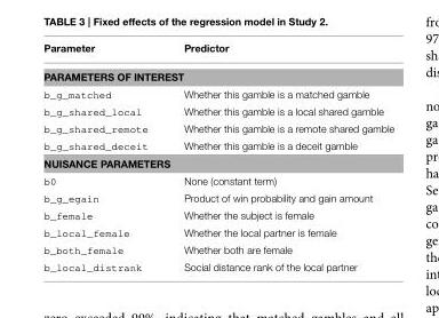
<table><thead><tr><td>Parameter</td><td>Predictor</td></tr></thead><tbody><tr><td colspan="2">PARAMETERS OF INTEREST</td></tr><tr><td>b_g_matched</td><td>Whether this gamble is a matched gamble</td></tr><tr><td>b_g_shared_local</td><td>Whether this gamble is a local shared gamble</td></tr><tr><td>b_g_shared_remote</td><td>Whether this gamble is a remote shared gamble</td></tr><tr><td>b_g_shared_deceit</td><td>Whether this gamble is a deceit gamble</td></tr><tr><td colspan="2">NUISANCE PARAMETERS</td></tr><tr><td>b0</td><td>None (constant term)</td></tr><tr><td>b_g_egain</td><td>Product of win probability and gain amount</td></tr><tr><td>b_female</td><td>Whether the subject is female</td></tr><tr><td>b_local_female</td><td>Whether the local partner is female</td></tr><tr><td>b_both_female</td><td>Whether both are female</td></tr><tr><td>b_local_distrank</td><td>Social distance rank of the local partner</td></tr></tbody></table>